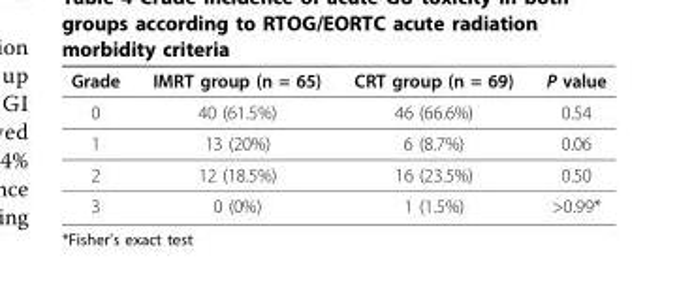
<table><thead><tr><td>Grade</td><td>IMRT group (n = 65)</td><td>CRT group (n = 69)</td><td>P value</td></tr></thead><tbody><tr><td>0</td><td>40 (61.5%)</td><td>46 (66.6%)</td><td>0.54</td></tr><tr><td>1</td><td>13 (20%)</td><td>6 (8.7%)</td><td>0.06</td></tr><tr><td>2</td><td>12 (18.5%)</td><td>16 (23.5%)</td><td>0.50</td></tr><tr><td>3</td><td>0 (0%)</td><td>1 (1.5%)</td><td>&gt;0.99*</td></tr></tbody></table>